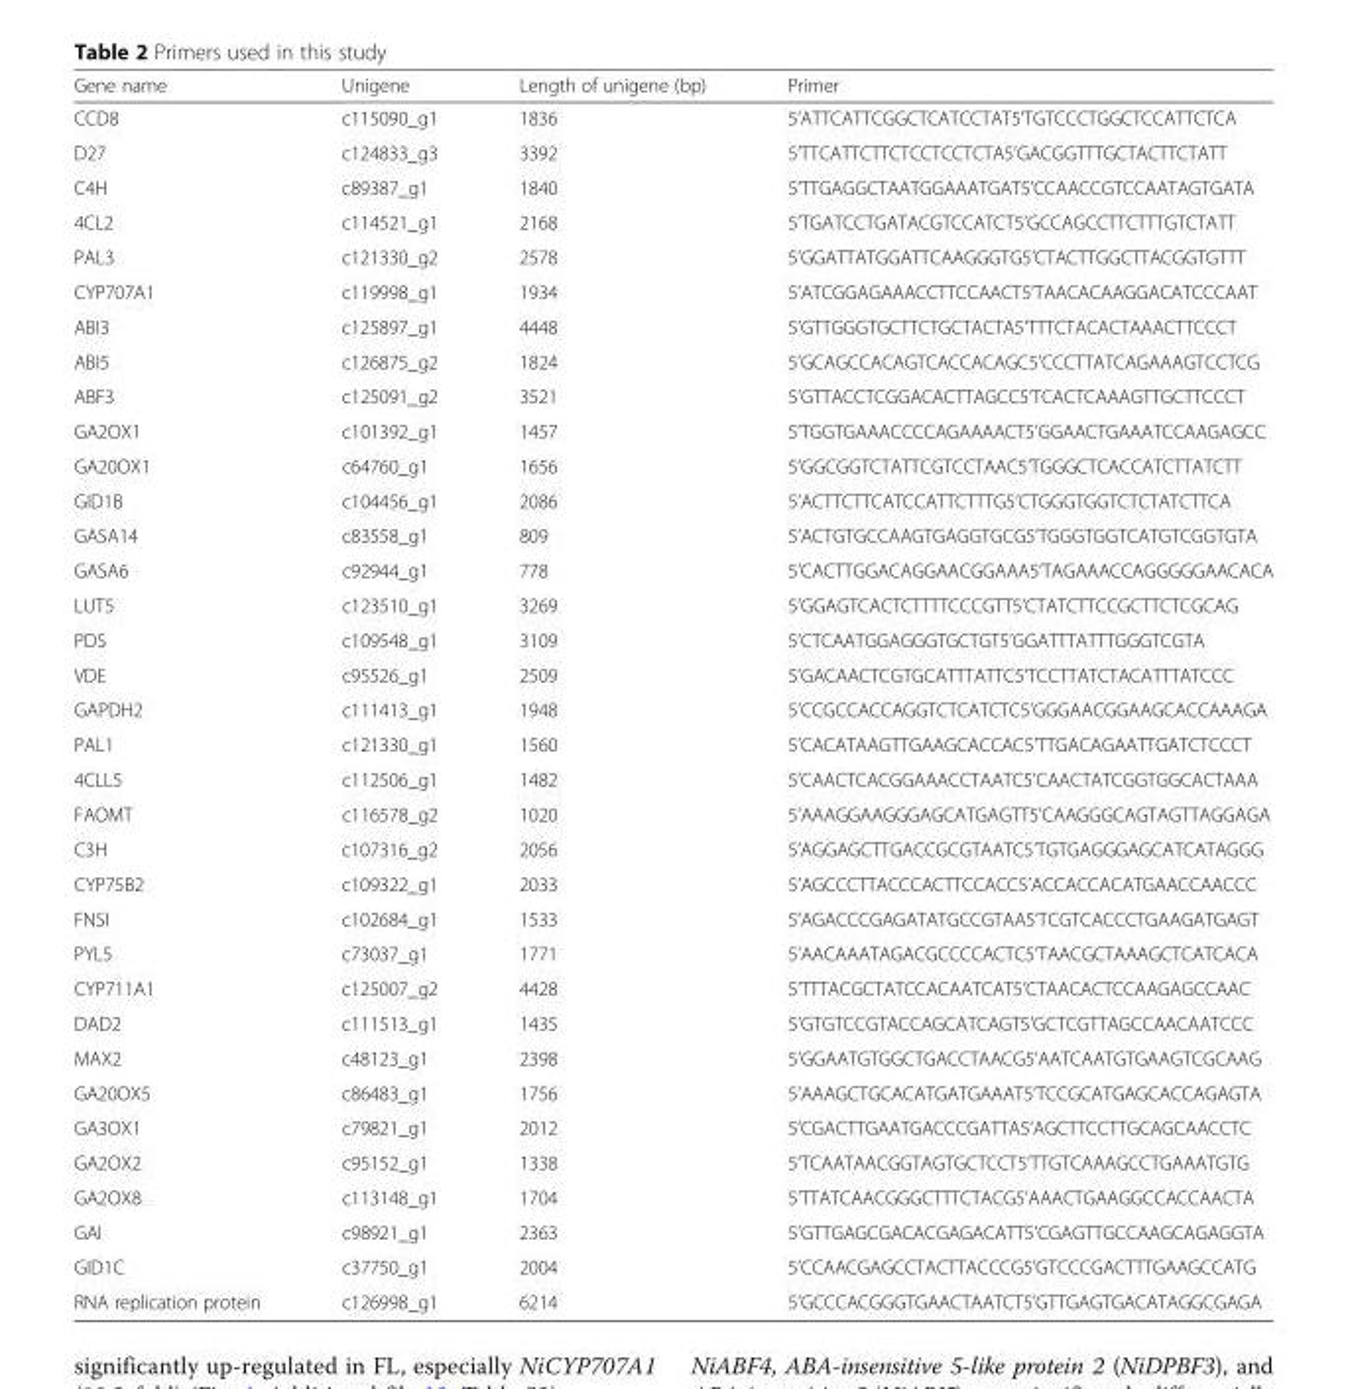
<table><thead><tr><td>Gene name</td><td>Unigene</td><td>Length of unigene (bp)</td><td>Primer</td></tr></thead><tbody><tr><td>CCD8</td><td>c115090_g1</td><td>1836</td><td>5’ATTCATTCGGCTCATCCTAT5’TGTCCCTGGCTCCATTCTCA</td></tr><tr><td>D27</td><td>c124833_g3</td><td>3392</td><td>5’TTCATTCTTCTCCTCCTCTA5’GACGGTTTGCTACTTCTATT</td></tr><tr><td>C4H</td><td>c89387_g1</td><td>1840</td><td>5’TTGAGGCTAATGGAAATGAT5’CCAACCGTCCAATAGTGATA</td></tr><tr><td>4CL2</td><td>c114521_g1</td><td>2168</td><td>5’TGATCCTGATACGTCCATCT5’GCCAGCCTTCTTTGTCTATT</td></tr><tr><td>PAL3</td><td>c121330_g2</td><td>2578</td><td>5’GGATTATGGATTCAAGGGTG5’CTACTTGGCTTACGGTGTTT</td></tr><tr><td>CYP707A1</td><td>c119998_g1</td><td>1934</td><td>5’ATCGGAGAAACCTTCCAACT5’TAACACAAGGACATCCCAAT</td></tr><tr><td>ABI3</td><td>c125897_g1</td><td>4448</td><td>5’GTTGGGTGCTTCTGCTACTA5’TTTCTACACTAAACTTCCCT</td></tr><tr><td>ABI5</td><td>c126875_g2</td><td>1824</td><td>5’GCAGCCACAGTCACCACAGC5’CCCTTATCAGAAAGTCCTCG</td></tr><tr><td>ABF3</td><td>c125091_g2</td><td>3521</td><td>5’GTTACCTCGGACACTTAGCC5’TCACTCAAAGTTGCTTCCCT</td></tr><tr><td>GA2OX1</td><td>c101392_g1</td><td>1457</td><td>5’TGGTGAAACCCCAGAAAACT5’GGAACTGAAATCCAAGAGCC</td></tr><tr><td>GA20OX1</td><td>c64760_g1</td><td>1656</td><td>5’GGCGGTCTATTCGTCCTAAC5’TGGGCTCACCATCTTATCTT</td></tr><tr><td>GID1B</td><td>c104456_g1</td><td>2086</td><td>5’ACTTCTTCATCCATTCTTTG5’CTGGGTGGTCTCTATCTTCA</td></tr><tr><td>GASA14</td><td>c83558_g1</td><td>809</td><td>5’ACTGTGCCAAGTGAGGTGCG5’TGGGTGGTCATGTCGGTGTA</td></tr><tr><td>GASA6</td><td>c92944_g1</td><td>778</td><td>5’CACTTGGACAGGAACGGAAA5’TAGAAACCAGGGGGAACACA</td></tr><tr><td>LUT5</td><td>c123510_g1</td><td>3269</td><td>5’GGAGTCACTCTTTTCCCGTT5’CTATCTTCCGCTTCTCGCAG</td></tr><tr><td>PDS</td><td>c109548_g1</td><td>3109</td><td>5’CTCAATGGAGGGTGCTGT5’GGATTTATTTGGGTCGTA</td></tr><tr><td>VDE</td><td>c95526_g1</td><td>2509</td><td>5’GACAACTCGTGCATTTATTC5’TCCTTATCTACATTTATCCC</td></tr><tr><td>GAPDH2</td><td>c111413_g1</td><td>1948</td><td>5’CCGCCACCAGGTCTCATCTC5’GGGAACGGAAGCACCAAAGA</td></tr><tr><td>PAL1</td><td>c121330_g1</td><td>1560</td><td>5’CACATAAGTTGAAGCACCAC5’TTGACAGAATTGATCTCCCT</td></tr><tr><td>4CLL5</td><td>c112506_g1</td><td>1482</td><td>5’CAACTCACGGAAACCTAATC5’CAACTATCGGTGGCACTAAA</td></tr><tr><td>FAOMT</td><td>c116578_g2</td><td>1020</td><td>5’AAAGGAAGGGAGCATGAGTT5’CAAGGGCAGTAGTTAGGAGA</td></tr><tr><td>C3H</td><td>c107316_g2</td><td>2056</td><td>5’AGGAGCTTGACCGCGTAATC5’TGTGAGGGAGCATCATAGGG</td></tr><tr><td>CYP75B2</td><td>c109322_g1</td><td>2033</td><td>5’AGCCCTTACCCACTTCCACC5’ACCACCACATGAACCAACCC</td></tr><tr><td>FNSI</td><td>c102684_g1</td><td>1533</td><td>5’AGACCCGAGATATGCCGTAA5’TCGTCACCCTGAAGATGAGT</td></tr><tr><td>PYL5</td><td>c73037_g1</td><td>1771</td><td>5’AACAAATAGACGCCCCACTC5’TAACGCTAAAGCTCATCACA</td></tr><tr><td>CYP711A1</td><td>c125007_g2</td><td>4428</td><td>5’TTTACGCTATCCACAATCAT5’CTAACACTCCAAGAGCCAAC</td></tr><tr><td>DAD2</td><td>c111513_g1</td><td>1435</td><td>5’GTGTCCGTACCAGCATCAGT5’GCTCGTTAGCCAACAATCCC</td></tr><tr><td>MAX2</td><td>c48123_g1</td><td>2398</td><td>5’GGAATGTGGCTGACCTAACG5’AATCAATGTGAAGTCGCAAG</td></tr><tr><td>GA20OX5</td><td>c86483_g1</td><td>1756</td><td>5’AAAGCTGCACATGATGAAAT5’TCCGCATGAGCACCAGAGTA</td></tr><tr><td>GA3OX1</td><td>c79821_g1</td><td>2012</td><td>5’CGACTTGAATGACCCGATTA5’AGCTTCCTTGCAGCAACCTC</td></tr><tr><td>GA2OX2</td><td>c95152_g1</td><td>1338</td><td>5’TCAATAACGGTAGTGCTCCT5’TTGTCAAAGCCTGAAATGTG</td></tr><tr><td>GA2OX8</td><td>c113148_g1</td><td>1704</td><td>5’TTATCAACGGGCTTTCTACG5’AAACTGAAGGCCACCAACTA</td></tr><tr><td>GAI</td><td>c98921_g1</td><td>2363</td><td>5’GTTGAGCGACACGAGACATT5’CGAGTTGCCAAGCAGAGGTA</td></tr><tr><td>GID1C</td><td>c37750_g1</td><td>2004</td><td>5’CCAACGAGCCTACTTACCCG5’GTCCCGACTTTGAAGCCATG</td></tr><tr><td>RNA replication protein</td><td>c126998_g1</td><td>6214</td><td>5’GCCCACGGGTGAACTAATCT5’GTTGAGTGACATAGGCGAGA</td></tr></tbody></table>